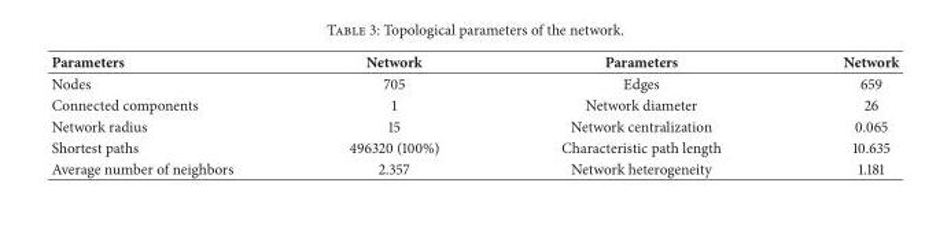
<table><thead><tr><td>Parameters</td><td>Network</td><td>Parameters</td><td>Network</td></tr></thead><tbody><tr><td>Nodes</td><td>705</td><td>Edges</td><td>659</td></tr><tr><td>Connected components</td><td>1</td><td>Network diameter</td><td>26</td></tr><tr><td>Network radius</td><td>15</td><td>Network centralization</td><td>0.065</td></tr><tr><td>Shortest paths</td><td>496320 (100%)</td><td>Characteristic path length</td><td>10.635</td></tr><tr><td>Average number of neighbors</td><td>2.357</td><td>Network heterogeneity</td><td>1.181</td></tr></tbody></table>